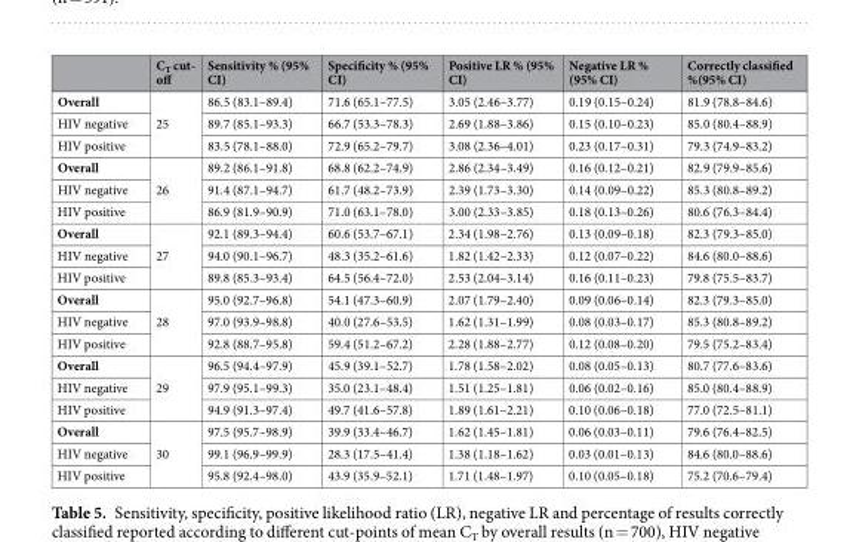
<table><thead><tr><td></td><td>C<sub>T</sub> cut- off</td><td>Sensitivity % (95% CI)</td><td>Specificity % (95% CI)</td><td>Positive LR % (95% CI)</td><td>Negative LR % (95% CI)</td><td>Correctly classified %(95% CI)</td></tr></thead><tbody><tr><td>Overall</td><td rowspan="3">25</td><td>86.5 (83.1–89.4)</td><td>71.6 (65.1–77.5)</td><td>3.05 (2.46–3.77)</td><td>0.19 (0.15–0.24)</td><td>81.9 (78.8–84.6)</td></tr><tr><td>HIV negative</td><td>89.7 (85.1–93.3)</td><td>66.7 (53.3–78.3)</td><td>2.69 (1.88–3.86)</td><td>0.15 (0.10–0.23)</td><td>85.0 (80.4–88.9)</td></tr><tr><td>HIV positive</td><td>83.5 (78.1–88.0)</td><td>72.9 (65.2–79.7)</td><td>3.08 (2.36–4.01)</td><td>0.23 (0.17–0.31)</td><td>79.3 (74.9–83.2)</td></tr><tr><td>Overall</td><td rowspan="3">26</td><td>89.2 (86.1–91.8)</td><td>68.8 (62.2–74.9)</td><td>2.86 (2.34–3.49)</td><td>0.16 (0.12–0.21)</td><td>82.9 (79.9–85.6)</td></tr><tr><td>HIV negative</td><td>91.4 (87.1–94.7)</td><td>61.7 (48.2–73.9)</td><td>2.39 (1.73–3.30)</td><td>0.14 (0.09–0.22)</td><td>85.3 (80.8–89.2)</td></tr><tr><td>HIV positive</td><td>86.9 (81.9–90.9)</td><td>71.0 (63.1–78.0)</td><td>3.00 (2.33–3.85)</td><td>0.18 (0.13–0.26)</td><td>80.6 (76.3–84.4)</td></tr><tr><td>Overall</td><td rowspan="3">27</td><td>92.1 (89.3–94.4)</td><td>60.6 (53.7–67.1)</td><td>2.34 (1.98–2.76)</td><td>0.13 (0.09–0.18)</td><td>82.3 (79.3–85.0)</td></tr><tr><td>HIV negative</td><td>94.0 (90.1–96.7)</td><td>48.3 (35.2–61.6)</td><td>1.82 (1.42–2.33)</td><td>0.12 (0.07–0.22)</td><td>84.6 (80.0–88.6)</td></tr><tr><td>HIV positive</td><td>89.8 (85.3–93.4)</td><td>64.5 (56.4–72.0)</td><td>2.53 (2.04–3.14)</td><td>0.16 (0.11–0.23)</td><td>79.8 (75.5–83.7)</td></tr><tr><td>Overall</td><td rowspan="3">28</td><td>95.0 (92.7–96.8)</td><td>54.1 (47.3–60.9)</td><td>2.07 (1.79–2.40)</td><td>0.09 (0.06–0.14)</td><td>82.3 (79.3–85.0)</td></tr><tr><td>HIV negative</td><td>97.0 (93.9–98.8)</td><td>40.0 (27.6–53.5)</td><td>1.62 (1.31–1.99)</td><td>0.08 (0.03–0.17)</td><td>85.3 (80.8–89.2)</td></tr><tr><td>HIV positive</td><td>92.8 (88.7–95.8)</td><td>59.4 (51.2–67.2)</td><td>2.28 (1.88–2.77)</td><td>0.12 (0.08–0.20)</td><td>79.5 (75.2–83.4)</td></tr><tr><td>Overall</td><td rowspan="3">29</td><td>96.5 (94.4–97.9)</td><td>45.9 (39.1–52.7)</td><td>1.78 (1.58–2.02)</td><td>0.08 (0.05–0.13)</td><td>80.7 (77.6–83.6)</td></tr><tr><td>HIV negative</td><td>97.9 (95.1–99.3)</td><td>35.0 (23.1–48.4)</td><td>1.51 (1.25–1.81)</td><td>0.06 (0.02–0.16)</td><td>85.0 (80.4–88.9)</td></tr><tr><td>HIV positive</td><td>94.9 (91.3–97.4)</td><td>49.7 (41.6–57.8)</td><td>1.89 (1.61–2.21)</td><td>0.10 (0.06–0.18)</td><td>77.0 (72.5–81.1)</td></tr><tr><td>Overall</td><td rowspan="3">30</td><td>97.5 (95.7–98.9)</td><td>39.9 (33.4–46.7)</td><td>1.62 (1.45–1.81)</td><td>0.06 (0.03–0.11)</td><td>79.6 (76.4–82.5)</td></tr><tr><td>HIV negative</td><td>99.1 (96.9–99.9)</td><td>28.3 (17.5–41.4)</td><td>1.38 (1.18–1.62)</td><td>0.03 (0.01–0.13)</td><td>84.6 (80.0–88.6)</td></tr><tr><td>HIV positive</td><td>95.8 (92.4–98.0)</td><td>43.9 (35.9–52.1)</td><td>1.71 (1.48–1.97)</td><td>0.10 (0.05–0.18)</td><td>75.2 (70.6–79.4)</td></tr></tbody></table>